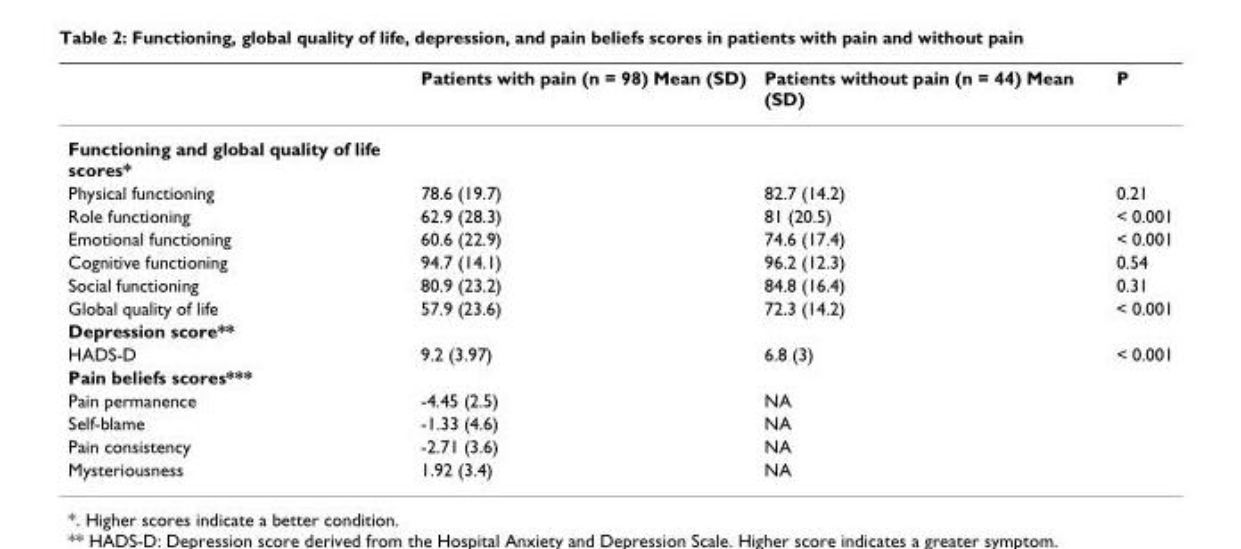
<table><thead><tr><td></td><td>Patients with pain (n = 98) Mean (SD)</td><td>Patients without pain (n = 44) Mean (SD)</td><td>P</td></tr></thead><tbody><tr><td colspan="4">Functioning and global quality of life scores*</td></tr><tr><td>Physical functioning</td><td>78.6 (19.7)</td><td>82.7 (14.2)</td><td>0.21</td></tr><tr><td>Role functioning</td><td>62.9 (28.3)</td><td>81 (20.5)</td><td>&lt; 0.001</td></tr><tr><td>Emotional functioning</td><td>60.6 (22.9)</td><td>74.6 (17.4)</td><td>&lt; 0.001</td></tr><tr><td>Cognitive functioning</td><td>94.7 (14.1)</td><td>96.2 (12.3)</td><td>0.54</td></tr><tr><td>Social functioning</td><td>80.9 (23.2)</td><td>84.8 (16.4)</td><td>0.31</td></tr><tr><td>Global quality of life</td><td>57.9 (23.6)</td><td>72.3 (14.2)</td><td>&lt; 0.001</td></tr><tr><td colspan="4">Depression score**</td></tr><tr><td>HADS-D</td><td>9.2 (3.97)</td><td>6.8 (3)</td><td>&lt; 0.001</td></tr><tr><td colspan="4">Pain beliefs scores***</td></tr><tr><td>Pain permanence</td><td>-4.45 (2.5)</td><td>NA</td><td></td></tr><tr><td>Self-blame</td><td>-1.33 (4.6)</td><td>NA</td><td></td></tr><tr><td>Pain consistency</td><td>-2.71 (3.6)</td><td>NA</td><td></td></tr><tr><td>Mysteriousness</td><td>1.92 (3.4)</td><td>NA</td><td></td></tr></tbody></table>